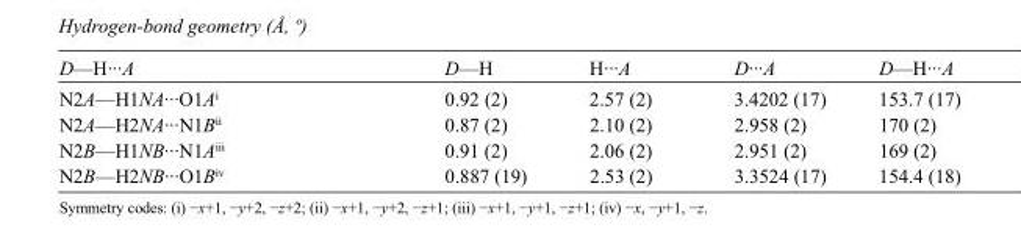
<table><tbody><tr><td>D—H···A</td><td>D—H</td><td>H···A</td><td>D···A</td><td>D—H···A</td></tr><tr><td>N2A—H1NA···O1A<sup>i</sup></td><td>0.92 (2)</td><td>2.57 (2)</td><td>3.4202 (17)</td><td>153.7 (17)</td></tr><tr><td>N2A—H2NA···N1B<sup>ii</sup></td><td>0.87 (2)</td><td>2.10 (2)</td><td>2.958 (2)</td><td>170 (2)</td></tr><tr><td>N2B—H1NB···N1A<sup>iii</sup></td><td>0.91 (2)</td><td>2.06 (2)</td><td>2.951 (2)</td><td>169 (2)</td></tr><tr><td>N2B—H2NB···O1B<sup>iv</sup></td><td>0.887 (19)</td><td>2.53 (2)</td><td>3.3524 (17)</td><td>154.4 (18)</td></tr></tbody></table>